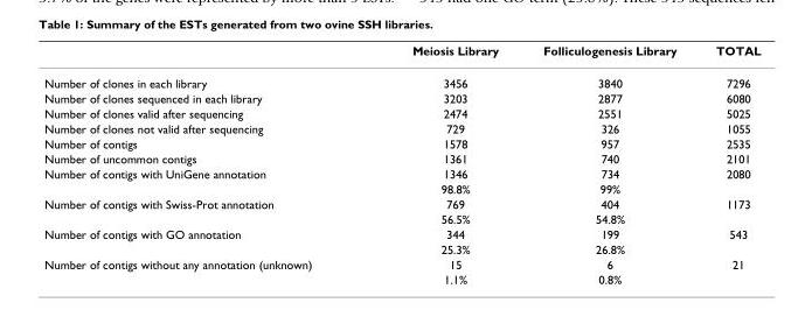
<table><thead><tr><td></td><td>Meiosis Library</td><td>Folliculogenesis Library</td><td>TOTAL</td></tr></thead><tbody><tr><td>Number of clones in each library</td><td>3456</td><td>3840</td><td>7296</td></tr><tr><td>Number of clones sequenced in each library</td><td>3203</td><td>2877</td><td>6080</td></tr><tr><td>Number of clones valid after sequencing</td><td>2474</td><td>2551</td><td>5025</td></tr><tr><td>Number of clones not valid after sequencing</td><td>729</td><td>326</td><td>1055</td></tr><tr><td>Number of contigs</td><td>1578</td><td>957</td><td>2535</td></tr><tr><td>Number of uncommon contigs</td><td>1361</td><td>740</td><td>2101</td></tr><tr><td rowspan="2">Number of contigs with UniGene annotation</td><td>1346</td><td>734</td><td>2080</td></tr><tr><td>98.8%</td><td>99%</td><td></td></tr><tr><td rowspan="2">Number of contigs with Swiss-Prot annotation</td><td>769</td><td>404</td><td>1173</td></tr><tr><td>56.5%</td><td>54.8%</td><td></td></tr><tr><td rowspan="2">Number of contigs with GO annotation</td><td>344</td><td>199</td><td>543</td></tr><tr><td>25.3%</td><td>26.8%</td><td></td></tr><tr><td rowspan="2">Number of contigs without any annotation (unknown)</td><td>15</td><td>6</td><td>21</td></tr><tr><td>1.1%</td><td>0.8%</td><td></td></tr></tbody></table>